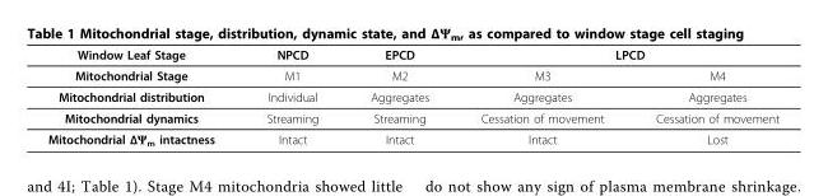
<table><thead><tr><td rowspan="2">Window Leaf Stage Mitochondrial Stage</td><td rowspan="2">NPCD M1</td><td rowspan="2">EPCD M2</td><td colspan="2">LPCD</td></tr><tr><td>M3</td><td>M4</td></tr></thead><tbody><tr><td>Mitochondrial distribution</td><td>Individual</td><td>Aggregates</td><td>Aggregates</td><td>Aggregates</td></tr><tr><td>Mitochondrial dynamics</td><td>Streaming</td><td>Streaming</td><td>Cessation of movement</td><td>Cessation of movement</td></tr><tr><td>Mitochondrial ΔΨ<sub>m</sub> intactness</td><td>Intact</td><td>Intact</td><td>Intact</td><td>Lost</td></tr></tbody></table>